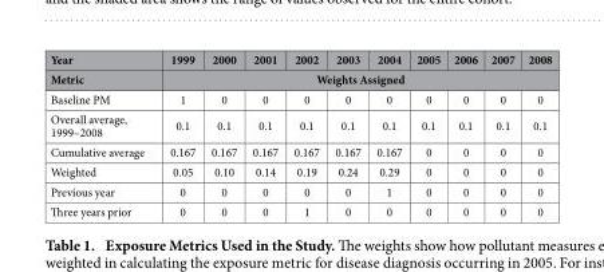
<table><thead><tr><td rowspan="2">Year Metric</td><td>1999</td><td>2000</td><td>2001</td><td>2002</td><td>2003</td><td>2004</td><td>2005</td><td>2006</td><td>2007</td><td>2008</td></tr><tr><td colspan="10">Weights Assigned</td></tr></thead><tbody><tr><td>Baseline PM</td><td>1</td><td>0</td><td>0</td><td>0</td><td>0</td><td>0</td><td>0</td><td>0</td><td>0</td><td>0</td></tr><tr><td>Overall average, 1999–2008</td><td>0.1</td><td>0.1</td><td>0.1</td><td>0.1</td><td>0.1</td><td>0.1</td><td>0.1</td><td>0.1</td><td>0.1</td><td>0.1</td></tr><tr><td>Cumulative average</td><td>0.167</td><td>0.167</td><td>0.167</td><td>0.167</td><td>0.167</td><td>0.167</td><td>0</td><td>0</td><td>0</td><td>0</td></tr><tr><td>Weighted</td><td>0.05</td><td>0.10</td><td>0.14</td><td>0.19</td><td>0.24</td><td>0.29</td><td>0</td><td>0</td><td>0</td><td>0</td></tr><tr><td>Previous year</td><td>0</td><td>0</td><td>0</td><td>0</td><td>0</td><td>1</td><td>0</td><td>0</td><td>0</td><td>0</td></tr><tr><td>Three years prior</td><td>0</td><td>0</td><td>0</td><td>1</td><td>0</td><td>0</td><td>0</td><td>0</td><td>0</td><td>0</td></tr></tbody></table>